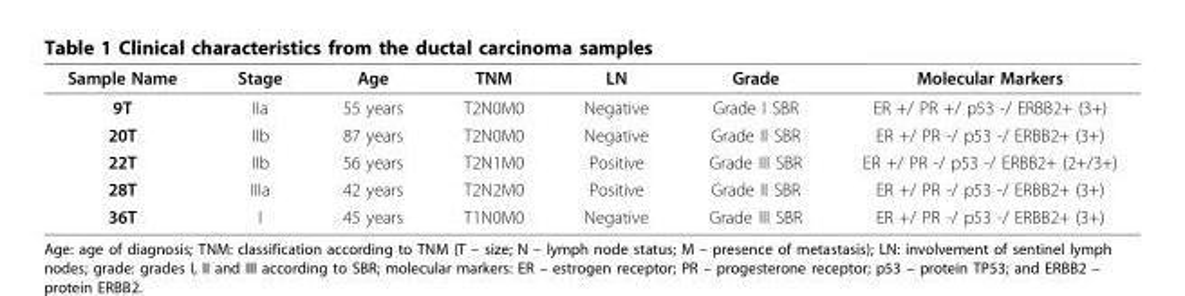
<table><thead><tr><td>Sample Name</td><td>Stage</td><td>Age</td><td>TNM</td><td>LN</td><td>Grade</td><td>Molecular Markers</td></tr></thead><tbody><tr><td>9T</td><td>IIa</td><td>55 years</td><td>T2N0M0</td><td>Negative</td><td>Grade I SBR</td><td>ER +/ PR +/ p53 -/ ERBB2+ (3+)</td></tr><tr><td>20T</td><td>IIb</td><td>87 years</td><td>T2N0M0</td><td>Negative</td><td>Grade II SBR</td><td>ER +/ PR -/ p53 -/ ERBB2+ (3+)</td></tr><tr><td>22T</td><td>IIb</td><td>56 years</td><td>T2N1M0</td><td>Positive</td><td>Grade III SBR</td><td>ER +/ PR -/ p53 -/ ERBB2+ (2+/3+)</td></tr><tr><td>28T</td><td>IIIa</td><td>42 years</td><td>T2N2M0</td><td>Positive</td><td>Grade II SBR</td><td>ER +/ PR -/ p53 -/ ERBB2+ (3+)</td></tr><tr><td>36T</td><td>I</td><td>45 years</td><td>T1N0M0</td><td>Negative</td><td>Grade III SBR</td><td>ER +/ PR -/ p53 -/ ERBB2+ (3+)</td></tr></tbody></table>